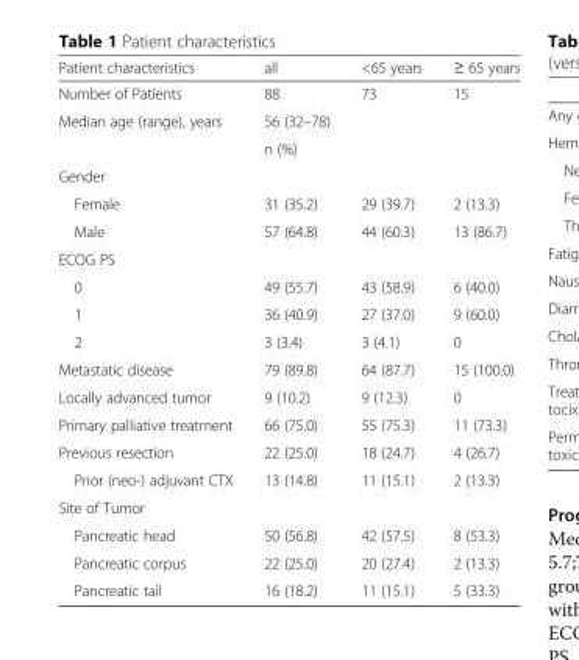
<table><thead><tr><td>Patient characteristics</td><td>all</td><td>&lt;65 years</td><td>≥ 65 years</td></tr></thead><tbody><tr><td>Number of Patients</td><td>88</td><td>73</td><td>15</td></tr><tr><td rowspan="2">Median age (range), years</td><td>56 (32–78)</td><td></td><td></td></tr><tr><td>n (%)</td><td></td><td></td></tr><tr><td colspan="4">Gender</td></tr><tr><td>Female</td><td>31 (35.2)</td><td>29 (39.7)</td><td>2 (13.3)</td></tr><tr><td>Male</td><td>57 (64.8)</td><td>44 (60.3)</td><td>13 (86.7)</td></tr><tr><td colspan="4">ECOG PS</td></tr><tr><td>0</td><td>49 (55.7)</td><td>43 (58.9)</td><td>6 (40.0)</td></tr><tr><td>1</td><td>36 (40.9)</td><td>27 (37.0)</td><td>9 (60.0)</td></tr><tr><td>2</td><td>3 (3.4)</td><td>3 (4.1)</td><td>0</td></tr><tr><td>Metastatic disease</td><td>79 (89.8)</td><td>64 (87.7)</td><td>15 (100.0)</td></tr><tr><td>Locally advanced tumor</td><td>9 (10.2)</td><td>9 (12.3)</td><td>0</td></tr><tr><td>Primary palliative treatment</td><td>66 (75.0)</td><td>55 (75.3)</td><td>11 (73.3)</td></tr><tr><td>Previous resection</td><td>22 (25.0)</td><td>18 (24.7)</td><td>4 (26.7)</td></tr><tr><td>Prior (neo-) adjuvant CTX</td><td>13 (14.8)</td><td>11 (15.1)</td><td>2 (13.3)</td></tr><tr><td colspan="4">Site of Tumor</td></tr><tr><td>Pancreatic head</td><td>50 (56.8)</td><td>42 (57.5)</td><td>8 (53.3)</td></tr><tr><td>Pancreatic corpus</td><td>22 (25.0)</td><td>20 (27.4)</td><td>2 (13.3)</td></tr><tr><td>Pancreatic tail</td><td>16 (18.2)</td><td>11 (15.1)</td><td>5 (33.3)</td></tr></tbody></table>